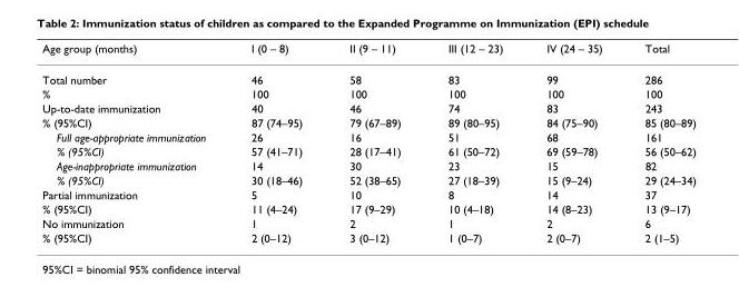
<table><thead><tr><td>Age group (months)</td><td>I (0 – 8)</td><td>II (9 – 11)</td><td>III (12 – 23)</td><td>IV (24 – 35)</td><td>Total</td></tr></thead><tbody><tr><td>Total number</td><td>46</td><td>58</td><td>83</td><td>99</td><td>286</td></tr><tr><td>%</td><td>100</td><td>100</td><td>100</td><td>100</td><td>100</td></tr><tr><td>Up-to-date immunization</td><td>40</td><td>46</td><td>74</td><td>83</td><td>243</td></tr><tr><td>% (95%CI)</td><td>87 (74–95)</td><td>79 (67–89)</td><td>89 (80–95)</td><td>84 (75–90)</td><td>85 (80–89)</td></tr><tr><td>Full age-appropriate immunization</td><td>26</td><td>16</td><td>51</td><td>68</td><td>161</td></tr><tr><td>% (95%CI)</td><td>57 (41–71)</td><td>28 (17–41)</td><td>61 (50–72)</td><td>69 (59–78)</td><td>56 (50–62)</td></tr><tr><td>Age-inappropriate immunization</td><td>14</td><td>30</td><td>23</td><td>15</td><td>82</td></tr><tr><td>% (95%CI)</td><td>30 (18–46)</td><td>52 (38–65)</td><td>27 (18–39)</td><td>15 (9–24)</td><td>29 (24–34)</td></tr><tr><td>Partial immunization</td><td>5</td><td>10</td><td>8</td><td>14</td><td>37</td></tr><tr><td>% (95%CI)</td><td>11 (4–24)</td><td>17 (9–29)</td><td>10 (4–18)</td><td>14 (8–23)</td><td>13 (9–17)</td></tr><tr><td>No immunization</td><td>1</td><td>2</td><td>1</td><td>2</td><td>6</td></tr><tr><td>% (95%CI)</td><td>2 (0–12)</td><td>3 (0–12)</td><td>1 (0–7)</td><td>2 (0–7)</td><td>2 (1–5)</td></tr></tbody></table>